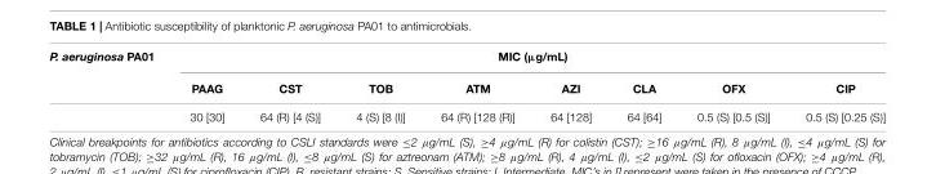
<table><thead><tr><td rowspan="2">P. aeruginosa PA01</td><td colspan="8">MIC (µg/mL)</td></tr><tr><td>PAAG</td><td>CST</td><td>TOB</td><td>ATM</td><td>AZI</td><td>CLA</td><td>OFX</td><td>CIP</td></tr></thead><tbody><tr><td></td><td>30 [30]</td><td>64 (R) [4 (S)]</td><td>4 (S) [8 (I)]</td><td>64 (R) [128 (R)]</td><td>64 [128]</td><td>64 [64]</td><td>0.5 (S) [0.5 (S)]</td><td>0.5 (S) [0.25 (S)]</td></tr></tbody></table>